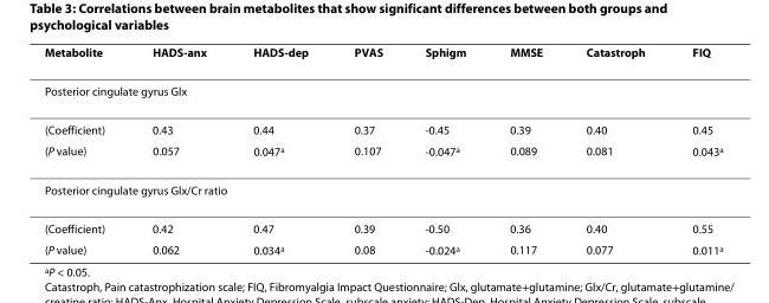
<table><thead><tr><td>Metabolite</td><td>HADS-anx</td><td>HADS-dep</td><td>PVAS</td><td>Sphigm</td><td>MMSE</td><td>Catastroph</td><td>FIQ</td></tr></thead><tbody><tr><td colspan="8">Posterior cingulate gyrus Glx</td></tr><tr><td>(Coefficient)</td><td>0.43</td><td>0.44</td><td>0.37</td><td>-0.45</td><td>0.39</td><td>0.40</td><td>0.45</td></tr><tr><td>(P value)</td><td>0.057</td><td>0.047<sup>a</sup></td><td>0.107</td><td>-0.047<sup>a</sup></td><td>0.089</td><td>0.081</td><td>0.043<sup>a</sup></td></tr><tr><td colspan="8">Posterior cingulate gyrus Glx/Cr ratio</td></tr><tr><td>(Coefficient)</td><td>0.42</td><td>0.47</td><td>0.39</td><td>-0.50</td><td>0.36</td><td>0.40</td><td>0.55</td></tr><tr><td>(P value)</td><td>0.062</td><td>0.034<sup>a</sup></td><td>0.08</td><td>-0.024<sup>a</sup></td><td>0.117</td><td>0.077</td><td>0.011<sup>a</sup></td></tr></tbody></table>